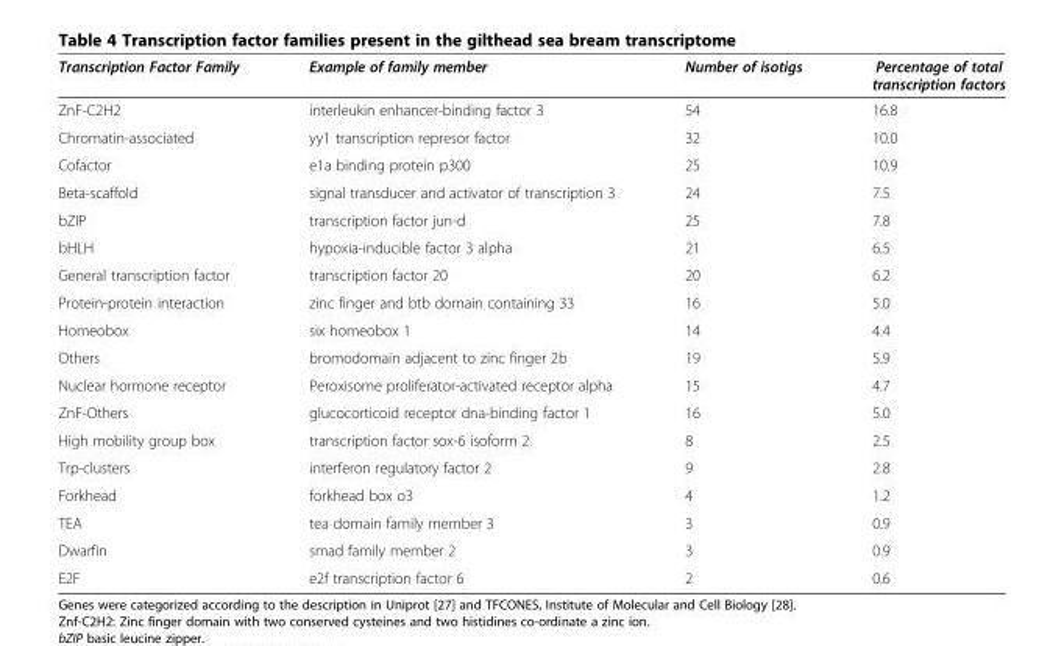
<table><thead><tr><td>Transcription Factor Family</td><td>Example of family member</td><td>Number of isotigs</td><td>Percentage of total transcription factors</td></tr></thead><tbody><tr><td>ZnF-C2H2</td><td>interleukin enhancer-binding factor 3</td><td>54</td><td>16.8</td></tr><tr><td>Chromatin-associated</td><td>yy1 transcription represor factor</td><td>32</td><td>10.0</td></tr><tr><td>Cofactor</td><td>e1a binding protein p300</td><td>25</td><td>10.9</td></tr><tr><td>Beta-scaffold</td><td>signal transducer and activator of transcription 3</td><td>24</td><td>7.5</td></tr><tr><td>bZIP</td><td>transcription factor jun-d</td><td>25</td><td>7.8</td></tr><tr><td>bHLH</td><td>hypoxia-inducible factor 3 alpha</td><td>21</td><td>6.5</td></tr><tr><td>General transcription factor</td><td>transcription factor 20</td><td>20</td><td>6.2</td></tr><tr><td>Protein-protein interaction</td><td>zinc finger and btb domain containing 33</td><td>16</td><td>5.0</td></tr><tr><td>Homeobox</td><td>six homeobox 1</td><td>14</td><td>4.4</td></tr><tr><td>Others</td><td>bromodomain adjacent to zinc finger 2b</td><td>19</td><td>5.9</td></tr><tr><td>Nuclear hormone receptor</td><td>Peroxisome proliferator-activated receptor alpha</td><td>15</td><td>4.7</td></tr><tr><td>ZnF-Others</td><td>glucocorticoid receptor dna-binding factor 1</td><td>16</td><td>5.0</td></tr><tr><td>High mobility group box</td><td>transcription factor sox-6 isoform 2</td><td>8</td><td>2.5</td></tr><tr><td>Trp-clusters</td><td>interferon regulatory factor 2</td><td>9</td><td>2.8</td></tr><tr><td>Forkhead</td><td>forkhead box o3</td><td>4</td><td>1.2</td></tr><tr><td>TEA</td><td>tea domain family member 3</td><td>3</td><td>0.9</td></tr><tr><td>Dwarfin</td><td>smad family member 2</td><td>3</td><td>0.9</td></tr><tr><td>E2F</td><td>e2f transcription factor 6</td><td>2</td><td>0.6</td></tr></tbody></table>